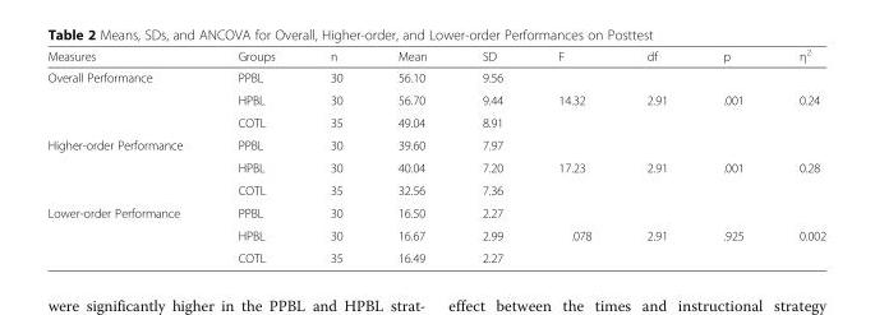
<table><thead><tr><td>Measures</td><td>Groups</td><td>n</td><td>Mean</td><td>SD</td><td>F</td><td>df</td><td>p</td><td>η<sup>2</sup></td></tr></thead><tbody><tr><td rowspan="3">Overall Performance</td><td>PPBL</td><td>30</td><td>56.10</td><td>9.56</td><td></td><td></td><td></td><td></td></tr><tr><td>HPBL</td><td>30</td><td>56.70</td><td>9.44</td><td>14.32</td><td>2.91</td><td>.001</td><td>0.24</td></tr><tr><td>COTL</td><td>35</td><td>49.04</td><td>8.91</td><td></td><td></td><td></td><td></td></tr><tr><td rowspan="3">Higher-order Performance</td><td>PPBL</td><td>30</td><td>39.60</td><td>7.97</td><td></td><td></td><td></td><td></td></tr><tr><td>HPBL</td><td>30</td><td>40.04</td><td>7.20</td><td>17.23</td><td>2.91</td><td>.001</td><td>0.28</td></tr><tr><td>COTL</td><td>35</td><td>32.56</td><td>7.36</td><td></td><td></td><td></td><td></td></tr><tr><td rowspan="3">Lower-order Performance</td><td>PPBL</td><td>30</td><td>16.50</td><td>2.27</td><td></td><td></td><td></td><td></td></tr><tr><td>HPBL</td><td>30</td><td>16.67</td><td>2.99</td><td>.078</td><td>2.91</td><td>.925</td><td>0.002</td></tr><tr><td>COTL</td><td>35</td><td>16.49</td><td>2.27</td><td></td><td></td><td></td><td></td></tr></tbody></table>